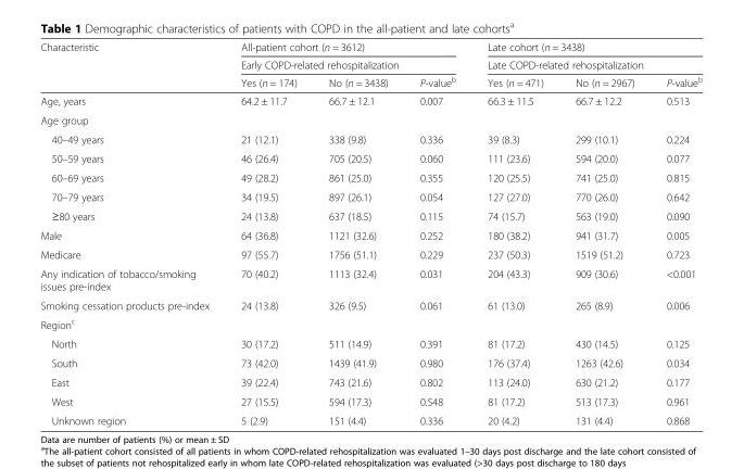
<table><thead><tr><td rowspan="3">Characteristic</td><td rowspan="2" colspan="3">All-patient cohort (n = 3612) Early COPD-related rehospitalization</td><td rowspan="2" colspan="3">Late cohort (n = 3438) Late COPD-related rehospitalization</td></tr><tr></tr><tr><td>Yes (n = 174)</td><td>No (n = 3438)</td><td>P-value<sup>b</sup></td><td>Yes (n = 471)</td><td>No (n = 2967)</td><td>P-value<sup>b</sup></td></tr></thead><tbody><tr><td>Age, years</td><td>64.2 ± 11.7</td><td>66.7 ± 12.1</td><td>0.007</td><td>66.3 ± 11.5</td><td>66.7 ± 12.2</td><td>0.513</td></tr><tr><td colspan="7">Age group</td></tr><tr><td>40–49 years</td><td>21 (12.1)</td><td>338 (9.8)</td><td>0.336</td><td>39 (8.3)</td><td>299 (10.1)</td><td>0.224</td></tr><tr><td>50–59 years</td><td>46 (26.4)</td><td>705 (20.5)</td><td>0.060</td><td>111 (23.6)</td><td>594 (20.0)</td><td>0.077</td></tr><tr><td>60–69 years</td><td>49 (28.2)</td><td>861 (25.0)</td><td>0.355</td><td>120 (25.5)</td><td>741 (25.0)</td><td>0.815</td></tr><tr><td>70–79 years</td><td>34 (19.5)</td><td>897 (26.1)</td><td>0.054</td><td>127 (27.0)</td><td>770 (26.0)</td><td>0.642</td></tr><tr><td>≥80 years</td><td>24 (13.8)</td><td>637 (18.5)</td><td>0.115</td><td>74 (15.7)</td><td>563 (19.0)</td><td>0.090</td></tr><tr><td>Male</td><td>64 (36.8)</td><td>1121 (32.6)</td><td>0.252</td><td>180 (38.2)</td><td>941 (31.7)</td><td>0.005</td></tr><tr><td>Medicare</td><td>97 (55.7)</td><td>1756 (51.1)</td><td>0.229</td><td>237 (50.3)</td><td>1519 (51.2)</td><td>0.723</td></tr><tr><td>Any indication of tobacco/smoking issues pre-index</td><td>70 (40.2)</td><td>1113 (32.4)</td><td>0.031</td><td>204 (43.3)</td><td>909 (30.6)</td><td>&lt;0.001</td></tr><tr><td>Smoking cessation products pre-index</td><td>24 (13.8)</td><td>326 (9.5)</td><td>0.061</td><td>61 (13.0)</td><td>265 (8.9)</td><td>0.006</td></tr><tr><td colspan="7">Region<sup>c</sup></td></tr><tr><td>North</td><td>30 (17.2)</td><td>511 (14.9)</td><td>0.391</td><td>81 (17.2)</td><td>430 (14.5)</td><td>0.125</td></tr><tr><td>South</td><td>73 (42.0)</td><td>1439 (41.9)</td><td>0.980</td><td>176 (37.4)</td><td>1263 (42.6)</td><td>0.034</td></tr><tr><td>East</td><td>39 (22.4)</td><td>743 (21.6)</td><td>0.802</td><td>113 (24.0)</td><td>630 (21.2)</td><td>0.177</td></tr><tr><td>West</td><td>27 (15.5)</td><td>594 (17.3)</td><td>0.548</td><td>81 (17.2)</td><td>513 (17.3)</td><td>0.961</td></tr><tr><td>Unknown region</td><td>5 (2.9)</td><td>151 (4.4)</td><td>0.336</td><td>20 (4.2)</td><td>131 (4.4)</td><td>0.868</td></tr></tbody></table>